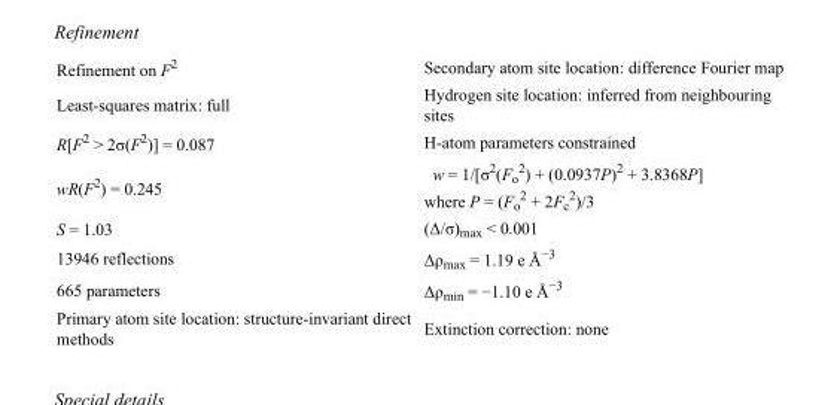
<table><tbody><tr><td>Refinement on F<sup>2</sup></td><td>Secondary atom site location: difference Fourier map</td></tr><tr><td>Least-squares matrix: full</td><td>Hydrogen site location: inferred from neighbouring sites</td></tr><tr><td>R[F<sup>2</sup> &gt; 2σ(F<sup>2</sup>)] = 0.087</td><td>H-atom parameters constrained</td></tr><tr><td>wR(F<sup>2</sup>) = 0.245</td><td>w = 1/[σ<sup>2</sup>(F<sub>o</sub> <sup>2</sup>) + (0.0937P)<sup>2</sup> + 3.8368P] where P = (F<sub>o</sub> <sup>2</sup> + 2F<sub>c</sub> <sup>2</sup>)/3</td></tr><tr><td>S = 1.03</td><td>(Δ/σ)<sub>max</sub> &lt; 0.001</td></tr><tr><td>13946 reflections</td><td>Δρ<sub>max</sub> = 1.19 e Å<sup>−3</sup></td></tr><tr><td>665 parameters</td><td>Δρ<sub>min</sub> = −1.10 e Å<sup>−3</sup></td></tr><tr><td>Primary atom site location: structure-invariant direct methods</td><td>Extinction correction: none</td></tr></tbody></table>